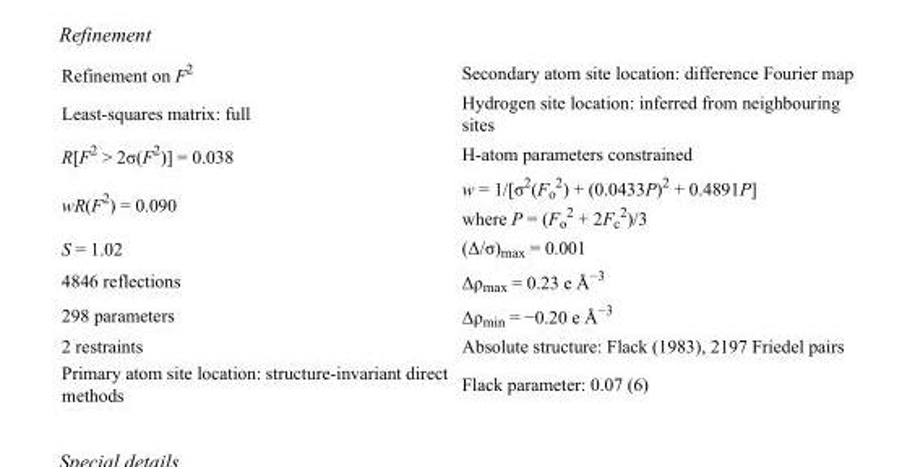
<table><tbody><tr><td>Refinement on F<sup>2</sup></td><td>Secondary atom site location: difference Fourier map</td></tr><tr><td>Least-squares matrix: full</td><td>Hydrogen site location: inferred from neighbouring sites</td></tr><tr><td>R[F<sup>2</sup> &gt; 2σ(F<sup>2</sup>)] = 0.038</td><td>H-atom parameters constrained</td></tr><tr><td>wR(F<sup>2</sup>) = 0.090</td><td>w = 1/[σ<sup>2</sup>(F<sub>o</sub> <sup>2</sup>) + (0.0433P)<sup>2</sup> + 0.4891P] where P = (F<sub>o</sub> <sup>2</sup> + 2F<sub>c</sub> <sup>2</sup>)/3</td></tr><tr><td>S = 1.02</td><td>(Δ/σ)<sub>max</sub> = 0.001</td></tr><tr><td>4846 reflections</td><td>Δρ<sub>max</sub> = 0.23 e Å<sup>−3</sup></td></tr><tr><td>298 parameters</td><td>Δρ<sub>min</sub> = −0.20 e Å<sup>−3</sup></td></tr><tr><td>2 restraints</td><td>Absolute structure: Flack (1983), 2197 Friedel pairs</td></tr><tr><td>Primary atom site location: structure-invariant direct methods</td><td>Flack parameter: 0.07 (6)</td></tr></tbody></table>